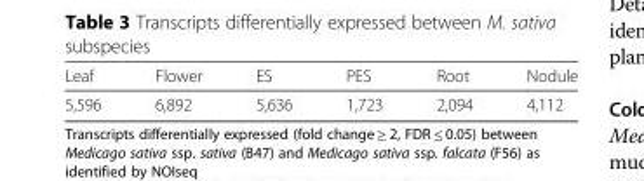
<table><thead><tr><td>Leaf</td><td>Flower</td><td>ES</td><td>PES</td><td>Root</td><td>Nodule</td></tr></thead><tbody><tr><td>5,596</td><td>6,892</td><td>5,636</td><td>1,723</td><td>2,094</td><td>4,112</td></tr></tbody></table>